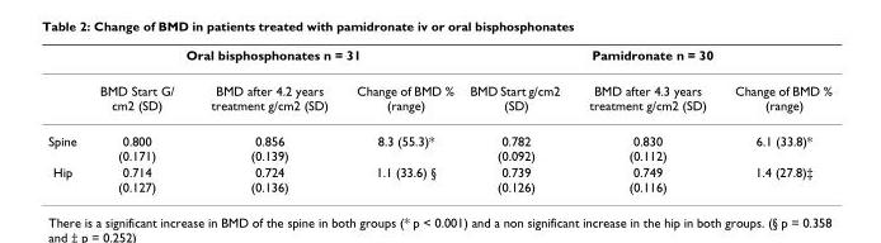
<table><thead><tr><td rowspan="2"></td><td colspan="3">Oral bisphosphonates n = 31</td><td colspan="3">Pamidronate n = 30</td></tr><tr><td>BMD Start G/ cm2 (SD)</td><td>BMD after 4.2 years treatment g/cm2 (SD)</td><td>Change of BMD % (range)</td><td>BMD Start g/cm2 (SD)</td><td>BMD after 4.3 years treatment g/cm2 (SD)</td><td>Change of BMD % (range)</td></tr></thead><tbody><tr><td>Spine</td><td>0.800 (0.171)</td><td>0.856 (0.139)</td><td>8.3 (55.3)*</td><td>0.782 (0.092)</td><td>0.830 (0.112)</td><td>6.1 (33.8)*</td></tr><tr><td>Hip</td><td>0.714 (0.127)</td><td>0.724 (0.136)</td><td>1.1 (33.6) §</td><td>0.739 (0.126)</td><td>0.749 (0.116)</td><td>1.4 (27.8)‡</td></tr></tbody></table>